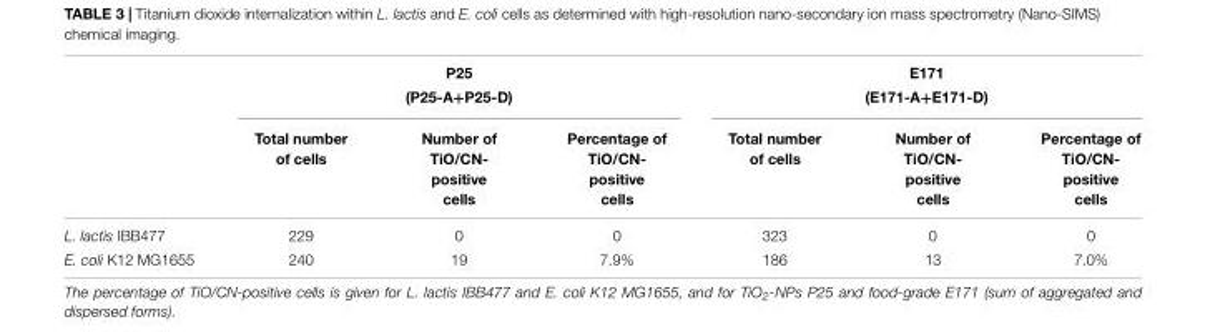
<table><thead><tr><td rowspan="3"></td><td rowspan="2" colspan="3">P25 (P25-A+P25-D)</td><td rowspan="2" colspan="3">E171 (E171-A+E171-D)</td></tr><tr></tr><tr><td>Total number of cells</td><td>Number of TiO/CN- positive cells</td><td>Percentage of TiO/CN- positive cells</td><td>Total number of cells</td><td>Number of TiO/CN- positive cells</td><td>Percentage of TiO/CN- positive cells</td></tr></thead><tbody><tr><td>L. lactis IBB477</td><td>229</td><td>0</td><td>0</td><td>323</td><td>0</td><td>0</td></tr><tr><td>E. coli K12 MG1655</td><td>240</td><td>19</td><td>7.9%</td><td>186</td><td>13</td><td>7.0%</td></tr></tbody></table>